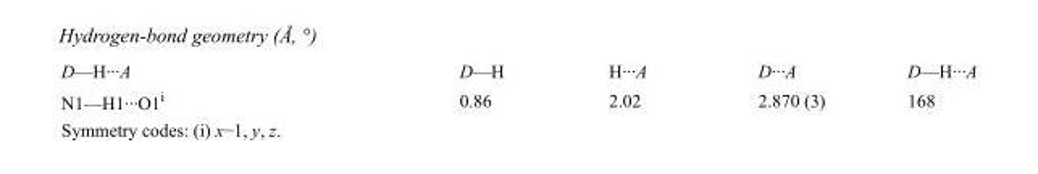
<table><tbody><tr><td>D—H···A</td><td>D—H</td><td>H···A</td><td>D···A</td><td>D—H···A</td></tr><tr><td>N1—H1···O1<sup>i</sup></td><td>0.86</td><td>2.02</td><td>2.870 (3)</td><td>168</td></tr></tbody></table>